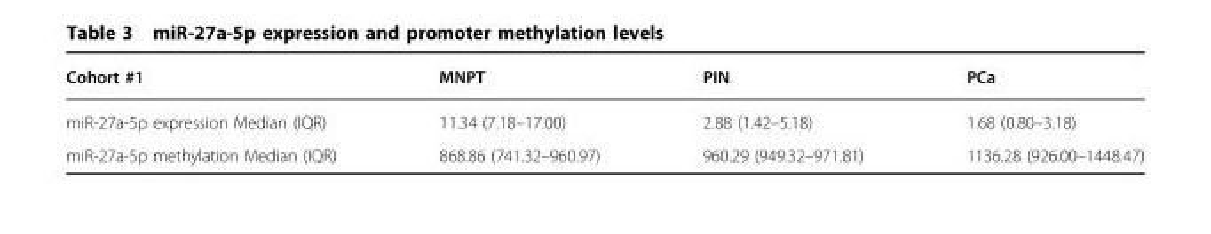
<table><thead><tr><td>Cohort #1</td><td>MNPT</td><td>PIN</td><td>PCa</td></tr></thead><tbody><tr><td>miR-27a-5p expression Median (IQR)</td><td>11.34 (7.18–17.00)</td><td>2.88 (1.42–5.18)</td><td>1.68 (0.80–3.18)</td></tr><tr><td>miR-27a-5p methylation Median (IQR)</td><td>868.86 (741.32–960.97)</td><td>960.29 (949.32–971.81)</td><td>1136.28 (926.00–1448.47)</td></tr></tbody></table>